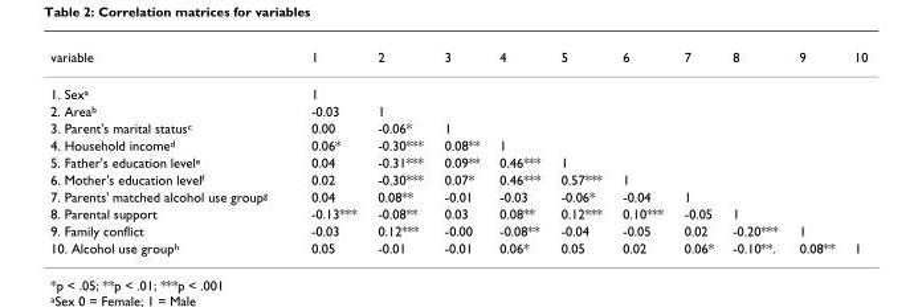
<table><thead><tr><td>variable</td><td>1</td><td>2</td><td>3</td><td>4</td><td>5</td><td>6</td><td>7</td><td>8</td><td>9</td><td>10</td></tr></thead><tbody><tr><td>1. Sex<sup>a</sup></td><td>1</td><td></td><td></td><td></td><td></td><td></td><td></td><td></td><td></td><td></td></tr><tr><td>2. Area<sup>b</sup></td><td>-0.03</td><td>1</td><td></td><td></td><td></td><td></td><td></td><td></td><td></td><td></td></tr><tr><td>3. Parent&#x27;s marital status<sup>c</sup></td><td>0.00</td><td>-0.06*</td><td>1</td><td></td><td></td><td></td><td></td><td></td><td></td><td></td></tr><tr><td>4. Household income<sup>d</sup></td><td>0.06*</td><td>-0.30***</td><td>0.08**</td><td>1</td><td></td><td></td><td></td><td></td><td></td><td></td></tr><tr><td>5. Father&#x27;s education level<sup>e</sup></td><td>0.04</td><td>-0.31***</td><td>0.09**</td><td>0.46***</td><td>1</td><td></td><td></td><td></td><td></td><td></td></tr><tr><td>6. Mother&#x27;s education level<sup>f</sup></td><td>0.02</td><td>-0.30***</td><td>0.07*</td><td>0.46***</td><td>0.57***</td><td>1</td><td></td><td></td><td></td><td></td></tr><tr><td>7. Parents&#x27; matched alcohol use group<sup>g</sup></td><td>0.04</td><td>0.08**</td><td>-0.01</td><td>-0.03</td><td>-0.06*</td><td>-0.04</td><td>1</td><td></td><td></td><td></td></tr><tr><td>8. Parental support</td><td>-0.13***</td><td>-0.08**</td><td>0.03</td><td>0.08**</td><td>0.12***</td><td>0.10***</td><td>-0.05</td><td>1</td><td></td><td></td></tr><tr><td>9. Family conflict</td><td>-0.03</td><td>0.12***</td><td>-0.00</td><td>-0.08**</td><td>-0.04</td><td>-0.05</td><td>0.02</td><td>-0.20***</td><td>1</td><td></td></tr><tr><td>10. Alcohol use group<sup>h</sup></td><td>0.05</td><td>-0.01</td><td>-0.01</td><td>0.06*</td><td>0.05</td><td>0.02</td><td>0.06*</td><td>-0.10**.</td><td>0.08**</td><td>1</td></tr></tbody></table>